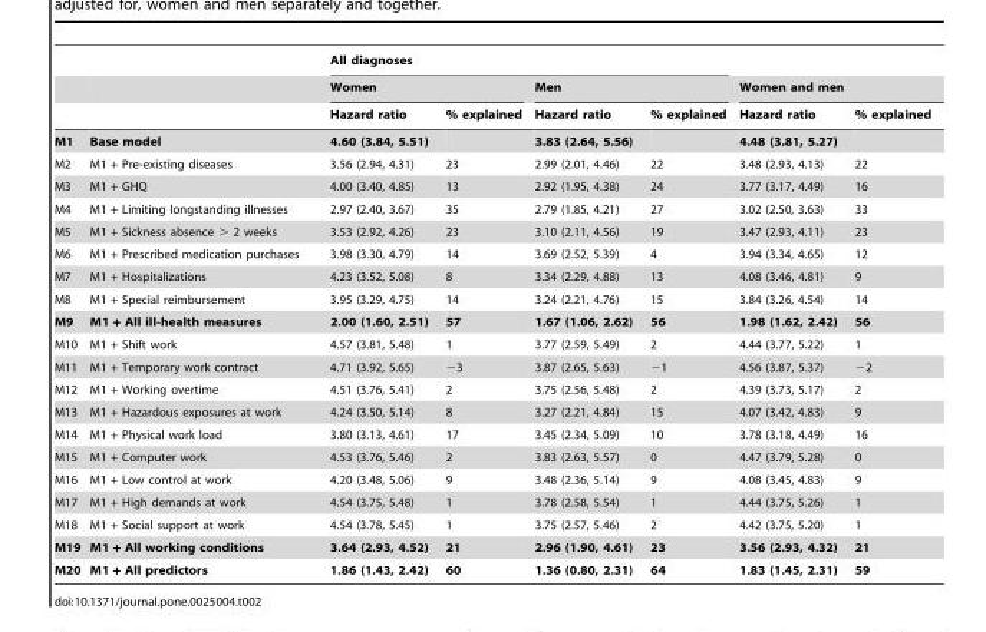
<table><thead><tr><td rowspan="3"></td><td rowspan="3"></td><td colspan="4">All diagnoses</td><td></td><td></td></tr><tr><td colspan="2">Women</td><td colspan="2">Men</td><td colspan="2">Women and men</td></tr><tr><td>Hazard ratio</td><td>% explained</td><td>Hazard ratio</td><td>% explained</td><td>Hazard ratio</td><td>% explained</td></tr></thead><tbody><tr><td>M1</td><td>Base model</td><td>4.60 (3.84, 5.51)</td><td></td><td>3.83 (2.64, 5.56)</td><td></td><td>4.48 (3.81, 5.27)</td><td></td></tr><tr><td>M2</td><td>M1 + Pre-existing diseases</td><td>3.56 (2.94, 4.31)</td><td>23</td><td>2.99 (2.01, 4.46)</td><td>22</td><td>3.48 (2.93, 4.13)</td><td>22</td></tr><tr><td>M3</td><td>M1 + GHQ</td><td>4.00 (3.40, 4.85)</td><td>13</td><td>2.92 (1.95, 4.38)</td><td>24</td><td>3.77 (3.17, 4.49)</td><td>16</td></tr><tr><td>M4</td><td>M1 + Limiting longstanding illnesses</td><td>2.97 (2.40, 3.67)</td><td>35</td><td>2.79 (1.85, 4.21)</td><td>27</td><td>3.02 (2.50, 3.63)</td><td>33</td></tr><tr><td>M5</td><td>M1 + Sickness absence &gt; 2 weeks</td><td>3.53 (2.92, 4.26)</td><td>23</td><td>3.10 (2.11, 4.56)</td><td>19</td><td>3.47 (2.93, 4.11)</td><td>23</td></tr><tr><td>M6</td><td>M1 + Prescribed medication purchases</td><td>3.98 (3.30, 4.79)</td><td>14</td><td>3.69 (2.52, 5.39)</td><td>4</td><td>3.94 (3.34, 4.65)</td><td>12</td></tr><tr><td>M7</td><td>M1 + Hospitalizations</td><td>4.23 (3.52, 5.08)</td><td>8</td><td>3.34 (2.29, 4.88)</td><td>13</td><td>4.08 (3.46, 4.81)</td><td>9</td></tr><tr><td>M8</td><td>M1 + Special reimbursement</td><td>3.95 (3.29, 4.75)</td><td>14</td><td>3.24 (2.21, 4.76)</td><td>15</td><td>3.84 (3.26, 4.54)</td><td>14</td></tr><tr><td>M9</td><td>M1 + All ill-health measures</td><td>2.00 (1.60, 2.51)</td><td>57</td><td>1.67 (1.06, 2.62)</td><td>56</td><td>1.98 (1.62, 2.42)</td><td>56</td></tr><tr><td>M10</td><td>M1 + Shift work</td><td>4.57 (3.81, 5.48)</td><td>1</td><td>3.77 (2.59, 5.49)</td><td>2</td><td>4.44 (3.77, 5.22)</td><td>1</td></tr><tr><td>M11</td><td>M1 + Temporary work contract</td><td>4.71 (3.92, 5.65)</td><td>−3</td><td>3.87 (2.65, 5.63)</td><td>−1</td><td>4.56 (3.87, 5.37)</td><td>−2</td></tr><tr><td>M12</td><td>M1 + Working overtime</td><td>4.51 (3.76, 5.41)</td><td>2</td><td>3.75 (2.56, 5.48)</td><td>2</td><td>4.39 (3.73, 5.17)</td><td>2</td></tr><tr><td>M13</td><td>M1 + Hazardous exposures at work</td><td>4.24 (3.50, 5.14)</td><td>8</td><td>3.27 (2.21, 4.84)</td><td>15</td><td>4.07 (3.42, 4.83)</td><td>9</td></tr><tr><td>M14</td><td>M1 + Physical work load</td><td>3.80 (3.13, 4.61)</td><td>17</td><td>3.45 (2.34, 5.09)</td><td>10</td><td>3.78 (3.18, 4.49)</td><td>16</td></tr><tr><td>M15</td><td>M1 + Computer work</td><td>4.53 (3.76, 5.46)</td><td>2</td><td>3.83 (2.63, 5.57)</td><td>0</td><td>4.47 (3.79, 5.28)</td><td>0</td></tr><tr><td>M16</td><td>M1 + Low control at work</td><td>4.20 (3.48, 5.06)</td><td>9</td><td>3.48 (2.36, 5.14)</td><td>9</td><td>4.08 (3.45, 4.83)</td><td>9</td></tr><tr><td>M17</td><td>M1 + High demands at work</td><td>4.54 (3.75, 5.48)</td><td>1</td><td>3.78 (2.58, 5.54)</td><td>1</td><td>4.44 (3.75, 5.26)</td><td>1</td></tr><tr><td>M18</td><td>M1 + Social support at work</td><td>4.54 (3.78, 5.45)</td><td>1</td><td>3.75 (2.57, 5.46)</td><td>2</td><td>4.42 (3.75, 5.20)</td><td>1</td></tr><tr><td>M19</td><td>M1 + All working conditions</td><td>3.64 (2.93, 4.52)</td><td>21</td><td>2.96 (1.90, 4.61)</td><td>23</td><td>3.56 (2.93, 4.32)</td><td>21</td></tr><tr><td>M20</td><td>M1 + All predictors</td><td>1.86 (1.43, 2.42)</td><td>60</td><td>1.36 (0.80, 2.31)</td><td>64</td><td>1.83 (1.45, 2.31)</td><td>59</td></tr></tbody></table>